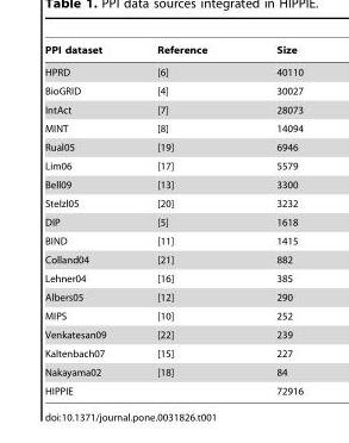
<table><thead><tr><td>PPI dataset</td><td>Reference</td><td>Size</td></tr></thead><tbody><tr><td>HPRD</td><td>[6]</td><td>40110</td></tr><tr><td>BioGRID</td><td>[4]</td><td>30027</td></tr><tr><td>IntAct</td><td>[7]</td><td>28073</td></tr><tr><td>MINT</td><td>[8]</td><td>14094</td></tr><tr><td>Rual05</td><td>[19]</td><td>6946</td></tr><tr><td>Lim06</td><td>[17]</td><td>5579</td></tr><tr><td>Bell09</td><td>[13]</td><td>3300</td></tr><tr><td>Stelzl05</td><td>[20]</td><td>3232</td></tr><tr><td>DIP</td><td>[5]</td><td>1618</td></tr><tr><td>BIND</td><td>[11]</td><td>1415</td></tr><tr><td>Colland04</td><td>[21]</td><td>882</td></tr><tr><td>Lehner04</td><td>[16]</td><td>385</td></tr><tr><td>Albers05</td><td>[12]</td><td>290</td></tr><tr><td>MIPS</td><td>[10]</td><td>252</td></tr><tr><td>Venkatesan09</td><td>[22]</td><td>239</td></tr><tr><td>Kaltenbach07</td><td>[15]</td><td>227</td></tr><tr><td>Nakayama02</td><td>[18]</td><td>84</td></tr><tr><td>HIPPIE</td><td></td><td>72916</td></tr></tbody></table>